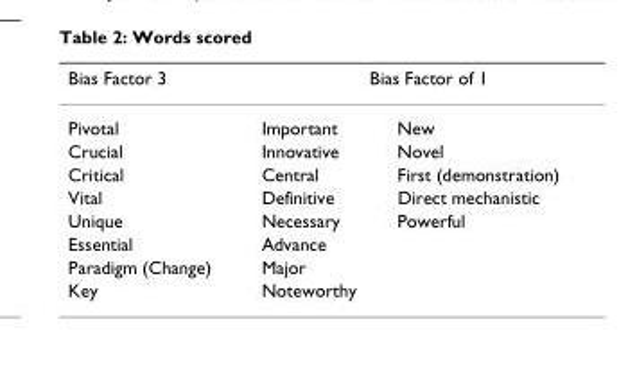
<table><thead><tr><td rowspan="2">Bias Factor 3 Pivotal</td><td colspan="2">Bias Factor of 1</td></tr><tr><td>Important</td><td>New</td></tr></thead><tbody><tr><td>Crucial</td><td>Innovative</td><td>Novel</td></tr><tr><td>Critical</td><td>Central</td><td>First (demonstration)</td></tr><tr><td>Vital</td><td>Definitive</td><td>Direct mechanistic</td></tr><tr><td>Unique</td><td>Necessary</td><td>Powerful</td></tr><tr><td>Essential</td><td>Advance</td><td></td></tr><tr><td>Paradigm (Change)</td><td>Major</td><td></td></tr><tr><td>Key</td><td>Noteworthy</td><td></td></tr></tbody></table>